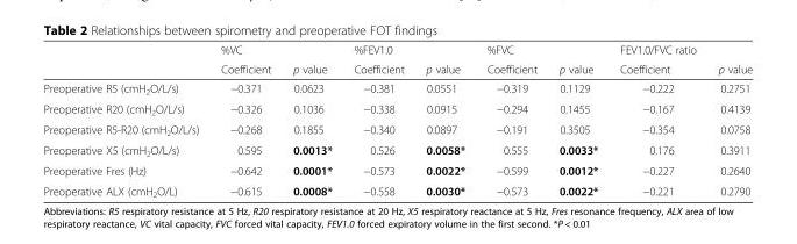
<table><thead><tr><td rowspan="2"></td><td rowspan="2">%VC Coefficient</td><td rowspan="2">p value</td><td rowspan="2">%FEV1.0 Coefficient</td><td rowspan="2">p value</td><td rowspan="2">%FVC Coefficient</td><td rowspan="2">p value</td><td rowspan="2">FEV1.0/FVC ratio Coefficient</td><td rowspan="2">p value</td></tr><tr></tr></thead><tbody><tr><td>Preoperative R5 (cmH<sub>2</sub>O/L/s)</td><td>−0.371</td><td>0.0623</td><td>−0.381</td><td>0.0551</td><td>−0.319</td><td>0.1129</td><td>−0.222</td><td>0.2751</td></tr><tr><td>Preoperative R20 (cmH<sub>2</sub>O/L/s)</td><td>−0.326</td><td>0.1036</td><td>−0.338</td><td>0.0915</td><td>−0.294</td><td>0.1455</td><td>−0.167</td><td>0.4139</td></tr><tr><td>Preoperative R5-R20 (cmH<sub>2</sub>O/L/s)</td><td>−0.268</td><td>0.1855</td><td>−0.340</td><td>0.0897</td><td>−0.191</td><td>0.3505</td><td>−0.354</td><td>0.0758</td></tr><tr><td>Preoperative X5 (cmH<sub>2</sub>O/L/s)</td><td>0.595</td><td>0.0013*</td><td>0.526</td><td>0.0058*</td><td>0.555</td><td>0.0033*</td><td>0.176</td><td>0.3911</td></tr><tr><td>Preoperative Fres (Hz)</td><td>−0.642</td><td>0.0001*</td><td>−0.573</td><td>0.0022*</td><td>−0.599</td><td>0.0012*</td><td>−0.227</td><td>0.2640</td></tr><tr><td>Preoperative ALX (cmH<sub>2</sub>O/L)</td><td>−0.615</td><td>0.0008*</td><td>−0.558</td><td>0.0030*</td><td>−0.573</td><td>0.0022*</td><td>−0.221</td><td>0.2790</td></tr></tbody></table>